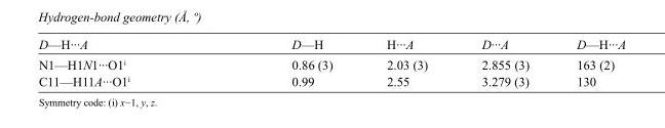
<table><tbody><tr><td>D—H···A</td><td>D—H</td><td>H···A</td><td>D···A</td><td>D—H···A</td></tr><tr><td>N1—H1N1···O1<sup>i</sup></td><td>0.86 (3)</td><td>2.03 (3)</td><td>2.855 (3)</td><td>163 (2)</td></tr><tr><td>C11—H11A···O1<sup>i</sup></td><td>0.99</td><td>2.55</td><td>3.279 (3)</td><td>130</td></tr></tbody></table>